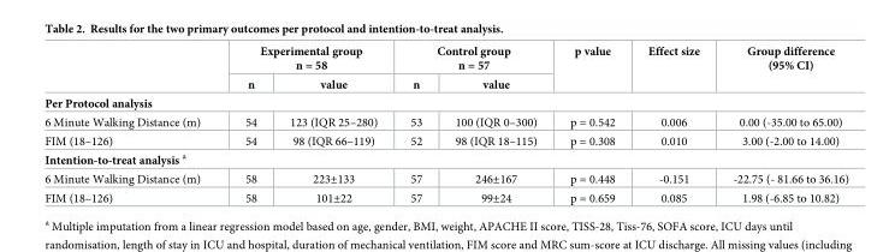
<table><thead><tr><td rowspan="2"></td><td colspan="2">Experimental group n = 58</td><td colspan="2">Control group n = 57</td><td rowspan="2">p value</td><td rowspan="2">Effect size</td><td rowspan="2">Group difference (95% CI)</td></tr><tr><td>n</td><td>value</td><td>n</td><td>value</td></tr></thead><tbody><tr><td colspan="8">Per Protocol analysis</td></tr><tr><td>6 Minute Walking Distance (m)</td><td>54</td><td>123 (IQR 25–280)</td><td>53</td><td>100 (IQR 0–300)</td><td>p = 0.542</td><td>0.006</td><td>0.00 (-35.00 to 65.00)</td></tr><tr><td>FIM (18–126)</td><td>54</td><td>98 (IQR 66–119)</td><td>52</td><td>98 (IQR 18–115)</td><td>p = 0.308</td><td>0.010</td><td>3.00 (-2.00 to 14.00)</td></tr><tr><td colspan="8">Intention-to-treat analysis <sup>a</sup></td></tr><tr><td>6 Minute Walking Distance (m)</td><td>58</td><td>223±133</td><td>57</td><td>246±167</td><td>p = 0.448</td><td>-0.151</td><td>-22.75 (- 81.66 to 36.16)</td></tr><tr><td>FIM (18–126)</td><td>58</td><td>101±22</td><td>57</td><td>99±24</td><td>p = 0.659</td><td>0.085</td><td>1.98 (-6.85 to 10.82)</td></tr></tbody></table>